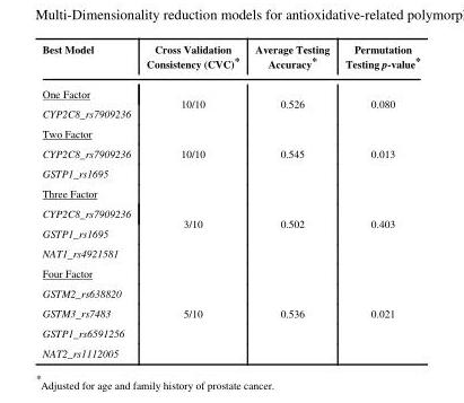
<table><thead><tr><td>Best Model</td><td>Cross Validation Consistency (CVC)*</td><td>Average Testing Accuracy*</td><td>Permutation Testing p-value*</td></tr></thead><tbody><tr><td>One Factor</td><td rowspan="2">10/10</td><td rowspan="2">0.526</td><td rowspan="2">0.080</td></tr><tr><td>CYP2C8_rs7909236</td></tr><tr><td colspan="4">Two Factor</td></tr><tr><td>CYP2C8_rs7909236</td><td>10/10</td><td>0.545</td><td>0.013</td></tr><tr><td colspan="4">GSTP1_rs1695</td></tr><tr><td colspan="4">Three Factor</td></tr><tr><td>CYP2C8_rs7909236</td><td rowspan="2">3/10</td><td rowspan="2">0.502</td><td rowspan="2">0.403</td></tr><tr><td>GSTP1_rs1695</td></tr><tr><td colspan="4">NAT1_rs4921581</td></tr><tr><td colspan="4">Four Factor</td></tr><tr><td colspan="4">GSTM2_rs638820</td></tr><tr><td>GSTM3_rs7483</td><td>5/10</td><td>0.536</td><td>0.021</td></tr><tr><td colspan="4">GSTP1_rs6591256</td></tr><tr><td>NAT2_rs1112005</td><td></td><td></td><td></td></tr></tbody></table>